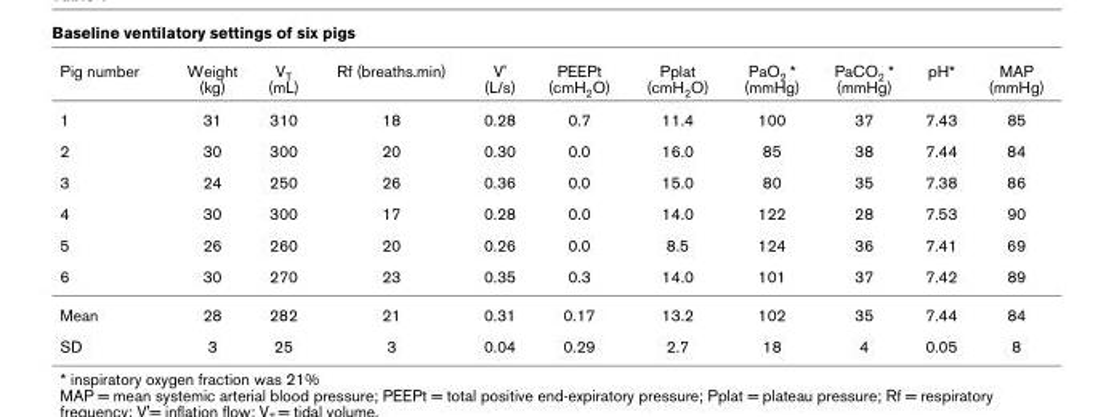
<table><thead><tr><td>Pig number</td><td>Weight (kg)</td><td>V<sub>T</sub> (mL)</td><td>Rf (breaths.min)</td><td>V&#x27; (L/s)</td><td>PEEPt (cmH<sub>2</sub>O)</td><td>Pplat (cmH<sub>2</sub>O)</td><td>PaO<sub>2</sub> * (mmHg)</td><td>PaCO<sub>2</sub> * (mmHg)</td><td>pH*</td><td>MAP (mmHg)</td></tr></thead><tbody><tr><td>1</td><td>31</td><td>310</td><td>18</td><td>0.28</td><td>0.7</td><td>11.4</td><td>100</td><td>37</td><td>7.43</td><td>85</td></tr><tr><td>2</td><td>30</td><td>300</td><td>20</td><td>0.30</td><td>0.0</td><td>16.0</td><td>85</td><td>38</td><td>7.44</td><td>84</td></tr><tr><td>3</td><td>24</td><td>250</td><td>26</td><td>0.36</td><td>0.0</td><td>15.0</td><td>80</td><td>35</td><td>7.38</td><td>86</td></tr><tr><td>4</td><td>30</td><td>300</td><td>17</td><td>0.28</td><td>0.0</td><td>14.0</td><td>122</td><td>28</td><td>7.53</td><td>90</td></tr><tr><td>5</td><td>26</td><td>260</td><td>20</td><td>0.26</td><td>0.0</td><td>8.5</td><td>124</td><td>36</td><td>7.41</td><td>69</td></tr><tr><td>6</td><td>30</td><td>270</td><td>23</td><td>0.35</td><td>0.3</td><td>14.0</td><td>101</td><td>37</td><td>7.42</td><td>89</td></tr><tr><td>Mean</td><td>28</td><td>282</td><td>21</td><td>0.31</td><td>0.17</td><td>13.2</td><td>102</td><td>35</td><td>7.44</td><td>84</td></tr><tr><td>SD</td><td>3</td><td>25</td><td>3</td><td>0.04</td><td>0.29</td><td>2.7</td><td>18</td><td>4</td><td>0.05</td><td>8</td></tr></tbody></table>